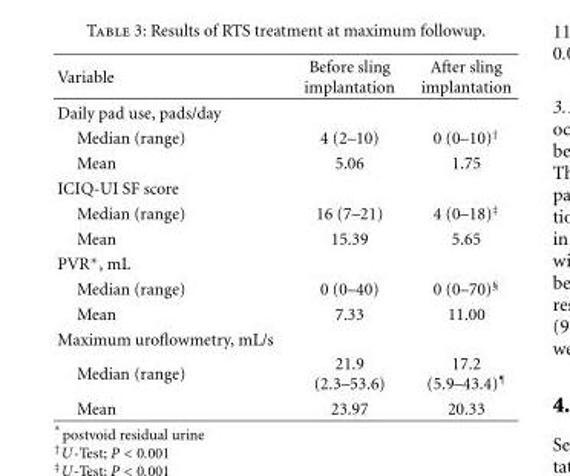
<table><thead><tr><td>Variable</td><td>Before sling implantation</td><td>After sling implantation</td></tr></thead><tbody><tr><td colspan="3">Daily pad use, pads/day</td></tr><tr><td>Median (range)</td><td>4 (2–10)</td><td>0 (0–10)<sup>†</sup></td></tr><tr><td>Mean</td><td>5.06</td><td>1.75</td></tr><tr><td colspan="3">ICIQ-UI SF score</td></tr><tr><td>Median (range)</td><td>16 (7–21)</td><td>4 (0–18)<sup>‡</sup></td></tr><tr><td>Mean</td><td>15.39</td><td>5.65</td></tr><tr><td colspan="3">PVR∗, mL</td></tr><tr><td>Median (range)</td><td>0 (0–40)</td><td>0 (0–70)<sup>§</sup></td></tr><tr><td>Mean</td><td>7.33</td><td>11.00</td></tr><tr><td colspan="3">Maximum uroflowmetry, mL/s</td></tr><tr><td>Median (range)</td><td>21.9 (2.3–53.6)</td><td>17.2 (5.9–43.4)<sup>¶</sup></td></tr><tr><td>Mean</td><td>23.97</td><td>20.33</td></tr></tbody></table>